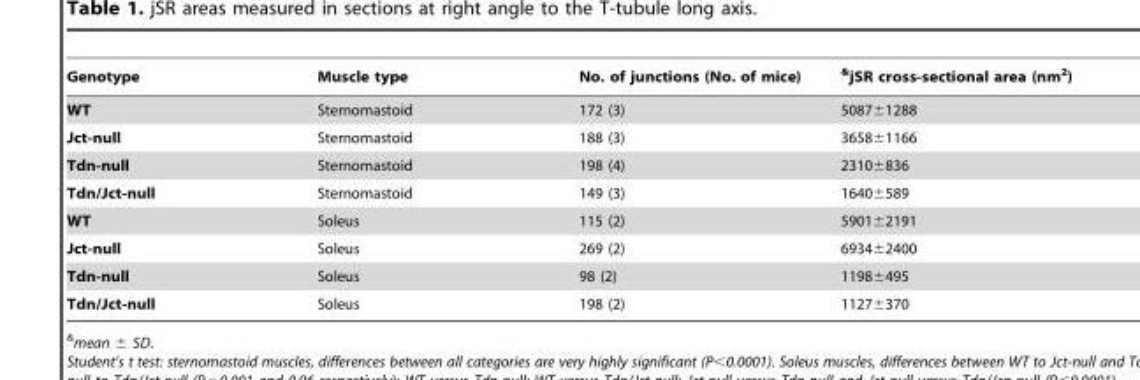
<table><thead><tr><td>Genotype</td><td>Muscle type</td><td>No. of junctions (No. of mice)</td><td>&amp;jSR cross-sectional area (nm<sup>2</sup>)</td></tr></thead><tbody><tr><td>WT</td><td>Sternomastoid</td><td>172 (3)</td><td>5087±1288</td></tr><tr><td>Jct-null</td><td>Sternomastoid</td><td>188 (3)</td><td>3658±1166</td></tr><tr><td>Tdn-null</td><td>Sternomastoid</td><td>198 (4)</td><td>2310±836</td></tr><tr><td>Tdn/Jct-null</td><td>Sternomastoid</td><td>149 (3)</td><td>1640±589</td></tr><tr><td>WT</td><td>Soleus</td><td>115 (2)</td><td>5901±2191</td></tr><tr><td>Jct-null</td><td>Soleus</td><td>269 (2)</td><td>6934±2400</td></tr><tr><td>Tdn-null</td><td>Soleus</td><td>98 (2)</td><td>1198±495</td></tr><tr><td>Tdn/Jct-null</td><td>Soleus</td><td>198 (2)</td><td>1127±370</td></tr></tbody></table>